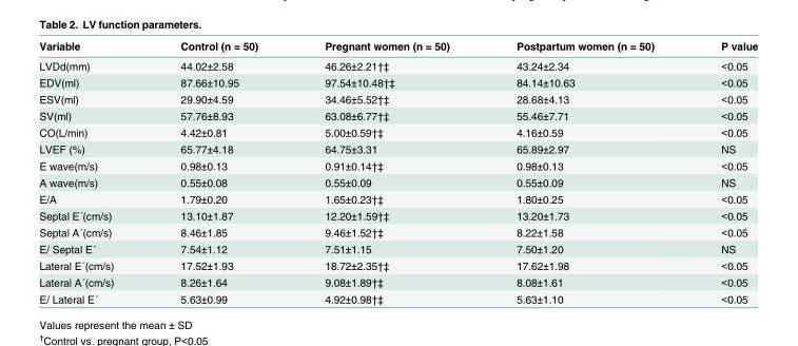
<table><thead><tr><td>Variable</td><td>Control (n = 50)</td><td>Pregnant women (n = 50)</td><td>Postpartum women (n = 50)</td><td>P value</td></tr></thead><tbody><tr><td>LVDd(mm)</td><td>44.02±2.58</td><td>46.26±2.21†‡</td><td>43.24±2.34</td><td>&lt;0.05</td></tr><tr><td>EDV(ml)</td><td>87.66±10.95</td><td>97.54±10.48†‡</td><td>84.14±10.63</td><td>&lt;0.05</td></tr><tr><td>ESV(ml)</td><td>29.90±4.59</td><td>34.46±5.52†‡</td><td>28.68±4.13</td><td>&lt;0.05</td></tr><tr><td>SV(ml)</td><td>57.76±8.93</td><td>63.08±6.77†‡</td><td>55.46±7.71</td><td>&lt;0.05</td></tr><tr><td>CO(L/min)</td><td>4.42±0.81</td><td>5.00±0.59†‡</td><td>4.16±0.59</td><td>&lt;0.05</td></tr><tr><td>LVEF (%)</td><td>65.77±4.18</td><td>64.75±3.31</td><td>65.89±2.97</td><td>NS</td></tr><tr><td>E wave(m/s)</td><td>0.98±0.13</td><td>0.91±0.14†‡</td><td>0.98±0.13</td><td>&lt;0.05</td></tr><tr><td>A wave(m/s)</td><td>0.55±0.08</td><td>0.55±0.09</td><td>0.55±0.09</td><td>NS</td></tr><tr><td>E/A</td><td>1.79±0.20</td><td>1.65±0.23†‡</td><td>1.80±0.25</td><td>&lt;0.05</td></tr><tr><td>Septal E´(cm/s)</td><td>13.10±1.87</td><td>12.20±1.59†‡</td><td>13.20±1.73</td><td>&lt;0.05</td></tr><tr><td>Septal A´(cm/s)</td><td>8.46±1.85</td><td>9.46±1.52†‡</td><td>8.22±1.58</td><td>&lt;0.05</td></tr><tr><td>E/ Septal E´</td><td>7.54±1.12</td><td>7.51±1.15</td><td>7.50±1.20</td><td>NS</td></tr><tr><td>Lateral E´(cm/s)</td><td>17.52±1.93</td><td>18.72±2.35†‡</td><td>17.62±1.98</td><td>&lt;0.05</td></tr><tr><td>Lateral A´(cm/s)</td><td>8.26±1.64</td><td>9.08±1.89†‡</td><td>8.08±1.61</td><td>&lt;0.05</td></tr><tr><td>E/ Lateral E´</td><td>5.63±0.99</td><td>4.92±0.98†‡</td><td>5.63±1.10</td><td>&lt;0.05</td></tr></tbody></table>